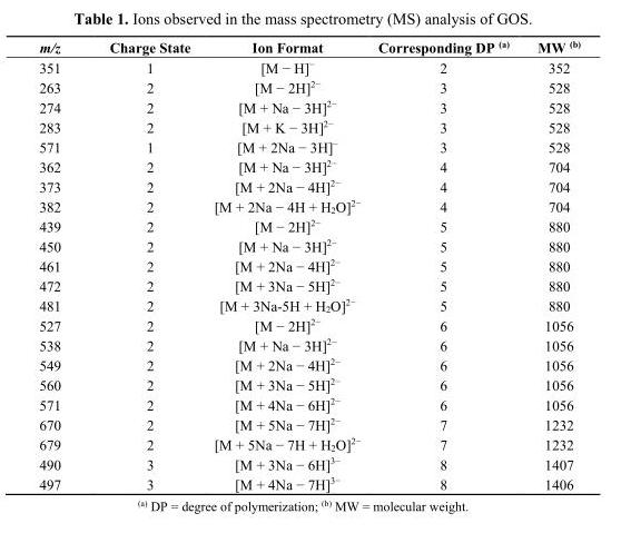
<table><thead><tr><td>m/z</td><td>Charge State</td><td>Ion Format</td><td>Corresponding DP <sup>(a)</sup></td><td>MW <sup>(b)</sup></td></tr></thead><tbody><tr><td>351</td><td>1</td><td>[M − H]<sup>−</sup></td><td>2</td><td>352</td></tr><tr><td>263</td><td>2</td><td>[M − 2H]<sup>2−</sup></td><td>3</td><td>528</td></tr><tr><td>274</td><td>2</td><td>[M + Na − 3H]<sup>2−</sup></td><td>3</td><td>528</td></tr><tr><td>283</td><td>2</td><td>[M + K − 3H]<sup>2−</sup></td><td>3</td><td>528</td></tr><tr><td>571</td><td>1</td><td>[M + 2Na − 3H]<sup>−</sup></td><td>3</td><td>528</td></tr><tr><td>362</td><td>2</td><td>[M + Na − 3H]<sup>2−</sup></td><td>4</td><td>704</td></tr><tr><td>373</td><td>2</td><td>[M + 2Na − 4H]<sup>2−</sup></td><td>4</td><td>704</td></tr><tr><td>382</td><td>2</td><td>[M + 2Na − 4H + H<sub>2</sub>O]<sup>2−</sup></td><td>4</td><td>704</td></tr><tr><td>439</td><td>2</td><td>[M − 2H]<sup>2−</sup></td><td>5</td><td>880</td></tr><tr><td>450</td><td>2</td><td>[M + Na − 3H]<sup>2−</sup></td><td>5</td><td>880</td></tr><tr><td>461</td><td>2</td><td>[M + 2Na − 4H]<sup>2−</sup></td><td>5</td><td>880</td></tr><tr><td>472</td><td>2</td><td>[M + 3Na − 5H]<sup>2−</sup></td><td>5</td><td>880</td></tr><tr><td>481</td><td>2</td><td>[M + 3Na-5H + H<sub>2</sub>O]<sup>2−</sup></td><td>5</td><td>880</td></tr><tr><td>527</td><td>2</td><td>[M − 2H]<sup>2−</sup></td><td>6</td><td>1056</td></tr><tr><td>538</td><td>2</td><td>[M + Na − 3H]<sup>2−</sup></td><td>6</td><td>1056</td></tr><tr><td>549</td><td>2</td><td>[M + 2Na − 4H]<sup>2−</sup></td><td>6</td><td>1056</td></tr><tr><td>560</td><td>2</td><td>[M + 3Na − 5H]<sup>2−</sup></td><td>6</td><td>1056</td></tr><tr><td>571</td><td>2</td><td>[M + 4Na − 6H]<sup>2−</sup></td><td>6</td><td>1056</td></tr><tr><td>670</td><td>2</td><td>[M + 5Na − 7H]<sup>2−</sup></td><td>7</td><td>1232</td></tr><tr><td>679</td><td>2</td><td>[M + 5Na − 7H + H<sub>2</sub>O]<sup>2−</sup></td><td>7</td><td>1232</td></tr><tr><td>490</td><td>3</td><td>[M + 3Na − 6H]<sup>3−</sup></td><td>8</td><td>1407</td></tr><tr><td>497</td><td>3</td><td>[M + 4Na − 7H]<sup>3−</sup></td><td>8</td><td>1406</td></tr></tbody></table>